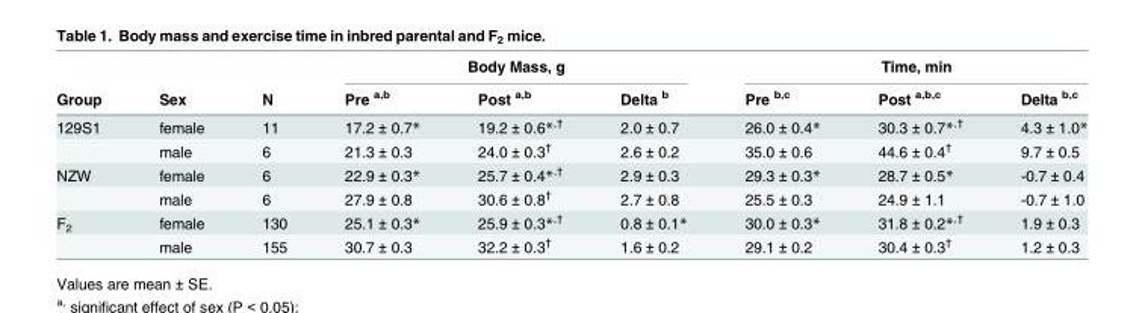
<table><thead><tr><td rowspan="2">Group</td><td rowspan="2">Sex</td><td rowspan="2">N</td><td colspan="3">Body Mass, g</td><td colspan="3">Time, min</td></tr><tr><td>Pre <sup>a,b</sup></td><td>Post <sup>a,b</sup></td><td>Delta <sup>b</sup></td><td>Pre <sup>b,c</sup></td><td>Post <sup>a,b,c</sup></td><td>Delta <sup>b,c</sup></td></tr></thead><tbody><tr><td rowspan="2">129S1</td><td>female</td><td>11</td><td>17.2 ± 0.7*</td><td>19.2 ± 0.6*<sup>,†</sup></td><td>2.0 ± 0.7</td><td>26.0 ± 0.4*</td><td>30.3 ± 0.7*<sup>,†</sup></td><td>4.3 ± 1.0*</td></tr><tr><td>male</td><td>6</td><td>21.3 ± 0.3</td><td>24.0 ± 0.3<sup>†</sup></td><td>2.6 ± 0.2</td><td>35.0 ± 0.6</td><td>44.6 ± 0.4<sup>†</sup></td><td>9.7 ± 0.5</td></tr><tr><td rowspan="2">NZW</td><td>female</td><td>6</td><td>22.9 ± 0.3*</td><td>25.7 ± 0.4*<sup>,†</sup></td><td>2.9 ± 0.3</td><td>29.3 ± 0.3*</td><td>28.7 ± 0.5*</td><td>-0.7 ± 0.4</td></tr><tr><td>male</td><td>6</td><td>27.9 ± 0.8</td><td>30.6 ± 0.8<sup>†</sup></td><td>2.7 ± 0.8</td><td>25.5 ± 0.3</td><td>24.9 ± 1.1</td><td>-0.7 ± 1.0</td></tr><tr><td rowspan="2">F<sub>2</sub></td><td>female</td><td>130</td><td>25.1 ± 0.3*</td><td>25.9 ± 0.3*<sup>,†</sup></td><td>0.8 ± 0.1*</td><td>30.0 ± 0.3*</td><td>31.8 ± 0.2*<sup>,†</sup></td><td>1.9 ± 0.3</td></tr><tr><td>male</td><td>155</td><td>30.7 ± 0.3</td><td>32.2 ± 0.3<sup>†</sup></td><td>1.6 ± 0.2</td><td>29.1 ± 0.2</td><td>30.4 ± 0.3<sup>†</sup></td><td>1.2 ± 0.3</td></tr></tbody></table>